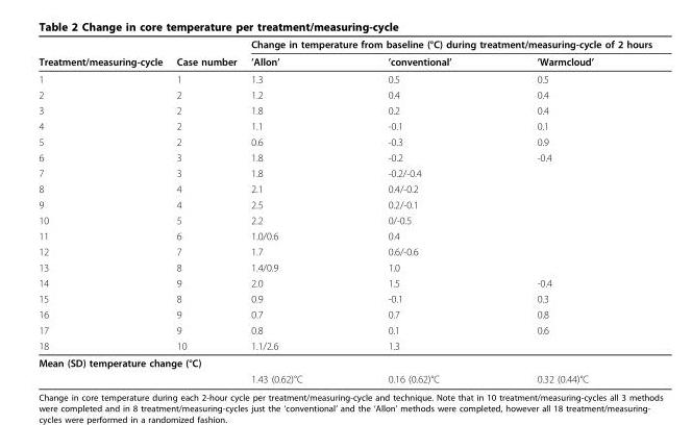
<table><thead><tr><td rowspan="2">Treatment/measuring-cycle</td><td rowspan="2">Case number</td><td colspan="3">Change in temperature from baseline (°C) during treatment/measuring-cycle of 2 hours</td></tr><tr><td>’Allon’</td><td>’conventional’</td><td>’Warmcloud’</td></tr></thead><tbody><tr><td>1</td><td>1</td><td>1.3</td><td>0.5</td><td>0.5</td></tr><tr><td>2</td><td>2</td><td>1.2</td><td>0.4</td><td>0.4</td></tr><tr><td>3</td><td>2</td><td>1.8</td><td>0.2</td><td>0.4</td></tr><tr><td>4</td><td>2</td><td>1.1</td><td>-0.1</td><td>0.1</td></tr><tr><td>5</td><td>2</td><td>0.6</td><td>-0.3</td><td>0.9</td></tr><tr><td>6</td><td>3</td><td>1.8</td><td>-0.2</td><td>-0.4</td></tr><tr><td>7</td><td>3</td><td>1.8</td><td>-0.2/-0.4</td><td></td></tr><tr><td>8</td><td>4</td><td>2.1</td><td>0.4/-0.2</td><td></td></tr><tr><td>9</td><td>4</td><td>2.5</td><td>0.2/-0.1</td><td></td></tr><tr><td>10</td><td>5</td><td>2.2</td><td>0/-0.5</td><td></td></tr><tr><td>11</td><td>6</td><td>1.0/0.6</td><td>0.4</td><td></td></tr><tr><td>12</td><td>7</td><td>1.7</td><td>0.6/-0.6</td><td></td></tr><tr><td>13</td><td>8</td><td>1.4/0.9</td><td>1.0</td><td></td></tr><tr><td>14</td><td>9</td><td>2.0</td><td>1.5</td><td>-0.4</td></tr><tr><td>15</td><td>8</td><td>0.9</td><td>-0.1</td><td>0.3</td></tr><tr><td>16</td><td>9</td><td>0.7</td><td>0.7</td><td>0.8</td></tr><tr><td>17</td><td>9</td><td>0.8</td><td>0.1</td><td>0.6</td></tr><tr><td>18</td><td>10</td><td>1.1/2.6</td><td>1.3</td><td></td></tr><tr><td colspan="5">Mean (SD) temperature change (°C)</td></tr><tr><td></td><td></td><td>1.43 (0.62)°C</td><td>0.16 (0.62)°C</td><td>0.32 (0.44)°C</td></tr></tbody></table>